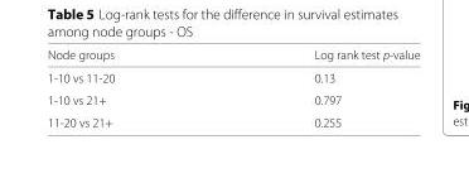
<table><thead><tr><td>Node groups</td><td>Log rank test p-value</td></tr></thead><tbody><tr><td>1-10 vs 11-20</td><td>0.13</td></tr><tr><td>1-10 vs 21+</td><td>0.797</td></tr><tr><td>11-20 vs 21+</td><td>0.255</td></tr></tbody></table>